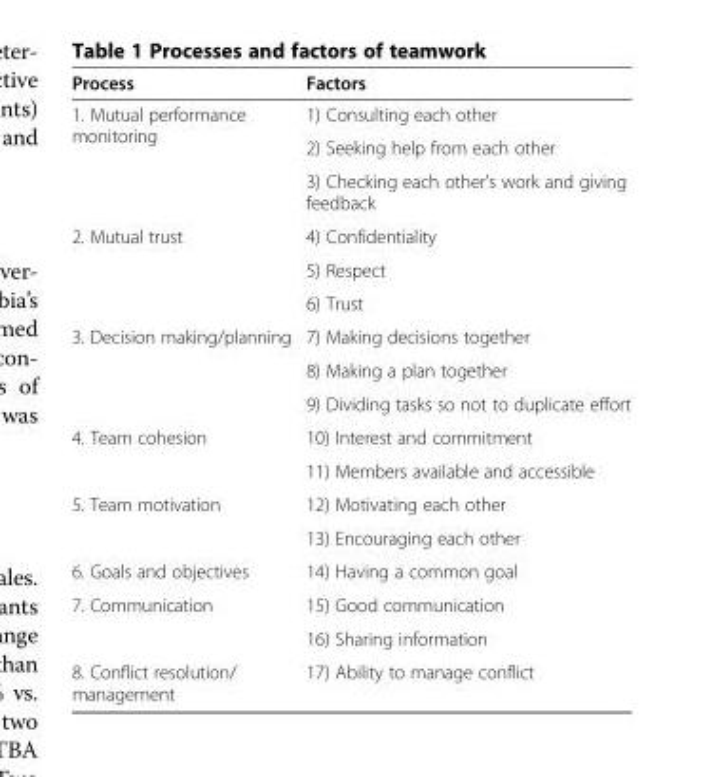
<table><thead><tr><td>Process</td><td>Factors</td></tr></thead><tbody><tr><td rowspan="3">1. Mutual performance monitoring</td><td>1) Consulting each other</td></tr><tr><td>2) Seeking help from each other</td></tr><tr><td>3) Checking each other’s work and giving feedback</td></tr><tr><td rowspan="3">2. Mutual trust</td><td>4) Confidentiality</td></tr><tr><td>5) Respect</td></tr><tr><td>6) Trust</td></tr><tr><td rowspan="3">3. Decision making/planning</td><td>7) Making decisions together</td></tr><tr><td>8) Making a plan together</td></tr><tr><td>9) Dividing tasks so not to duplicate effort</td></tr><tr><td rowspan="2">4. Team cohesion</td><td>10) Interest and commitment</td></tr><tr><td>11) Members available and accessible</td></tr><tr><td rowspan="2">5. Team motivation</td><td>12) Motivating each other</td></tr><tr><td>13) Encouraging each other</td></tr><tr><td>6. Goals and objectives</td><td>14) Having a common goal</td></tr><tr><td rowspan="2">7. Communication</td><td>15) Good communication</td></tr><tr><td>16) Sharing information</td></tr><tr><td>8. Conflict resolution/ management</td><td>17) Ability to manage conflict</td></tr></tbody></table>